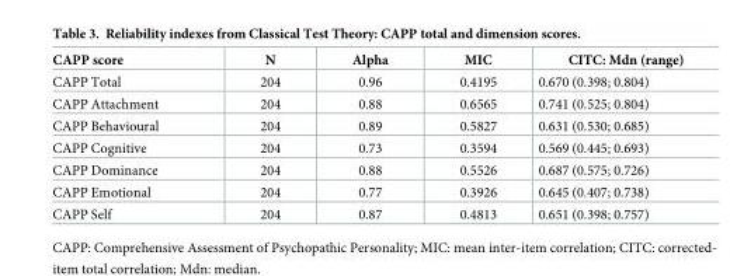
<table><thead><tr><td>CAPP score</td><td>N</td><td>Alpha</td><td>MIC</td><td>CITC: Mdn (range)</td></tr></thead><tbody><tr><td>CAPP Total</td><td>204</td><td>0.96</td><td>0.4195</td><td>0.670 (0.398; 0.804)</td></tr><tr><td>CAPP Attachment</td><td>204</td><td>0.88</td><td>0.6565</td><td>0.741 (0.525; 0.804)</td></tr><tr><td>CAPP Behavioural</td><td>204</td><td>0.89</td><td>0.5827</td><td>0.631 (0.530; 0.685)</td></tr><tr><td>CAPP Cognitive</td><td>204</td><td>0.73</td><td>0.3594</td><td>0.569 (0.445; 0.693)</td></tr><tr><td>CAPP Dominance</td><td>204</td><td>0.88</td><td>0.5526</td><td>0.687 (0.575; 0.726)</td></tr><tr><td>CAPP Emotional</td><td>204</td><td>0.77</td><td>0.3926</td><td>0.645 (0.407; 0.738)</td></tr><tr><td>CAPP Self</td><td>204</td><td>0.87</td><td>0.4813</td><td>0.651 (0.398; 0.757)</td></tr></tbody></table>